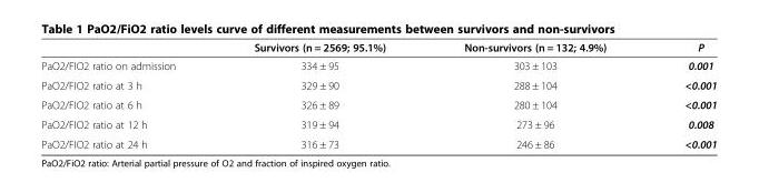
<table><thead><tr><td></td><td>Survivors (n = 2569; 95.1%)</td><td>Non-survivors (n = 132; 4.9%)</td><td>P</td></tr></thead><tbody><tr><td>PaO2/FIO2 ratio on admission</td><td>334 ± 95</td><td>303 ± 103</td><td>0.001</td></tr><tr><td>PaO2/FIO2 ratio at 3 h</td><td>329 ± 90</td><td>288 ± 104</td><td>&lt;0.001</td></tr><tr><td>PaO2/FIO2 ratio at 6 h</td><td>326 ± 89</td><td>280 ± 104</td><td>&lt;0.001</td></tr><tr><td>PaO2/FIO2 ratio at 12 h</td><td>319 ± 94</td><td>273 ± 96</td><td>0.008</td></tr><tr><td>PaO2/FIO2 ratio at 24 h</td><td>316 ± 73</td><td>246 ± 86</td><td>&lt;0.001</td></tr></tbody></table>